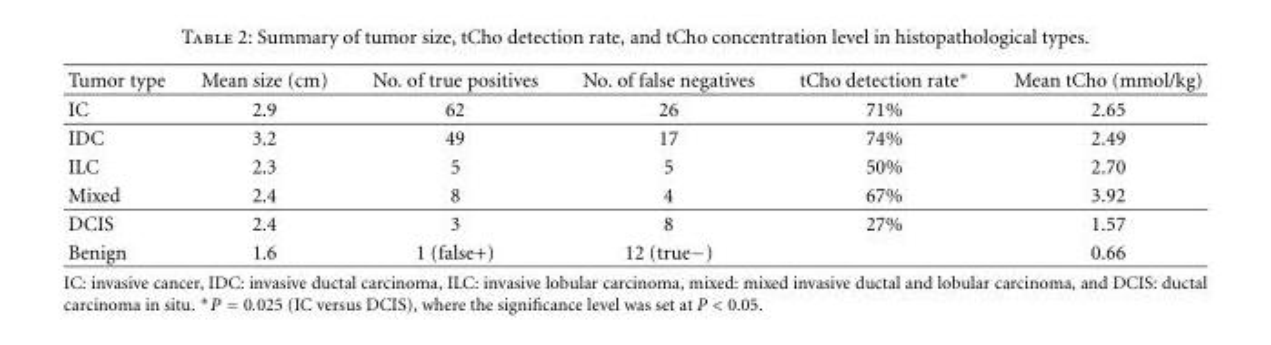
<table><thead><tr><td>Tumor type</td><td>Mean size (cm)</td><td>No. of true positives</td><td>No. of false negatives</td><td>tCho detection rate∗</td><td>Mean tCho (mmol/kg)</td></tr></thead><tbody><tr><td>IC</td><td>2.9</td><td>62</td><td>26</td><td>71%</td><td>2.65</td></tr><tr><td>IDC</td><td>3.2</td><td>49</td><td>17</td><td>74%</td><td>2.49</td></tr><tr><td>ILC</td><td>2.3</td><td>5</td><td>5</td><td>50%</td><td>2.70</td></tr><tr><td>Mixed</td><td>2.4</td><td>8</td><td>4</td><td>67%</td><td>3.92</td></tr><tr><td>DCIS</td><td>2.4</td><td>3</td><td>8</td><td>27%</td><td>1.57</td></tr><tr><td>Benign</td><td>1.6</td><td>1 (false+)</td><td>12 (true−)</td><td></td><td>0.66</td></tr></tbody></table>